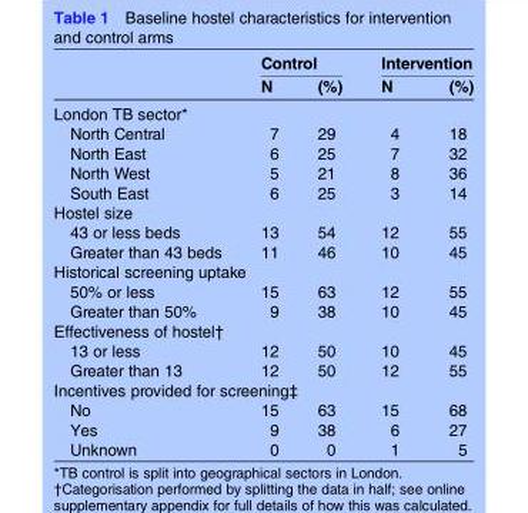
<table><thead><tr><td rowspan="2"></td><td colspan="2">Control</td><td colspan="2">Intervention</td></tr><tr><td>N</td><td>(%)</td><td>N</td><td>(%)</td></tr></thead><tbody><tr><td colspan="5">London TB sector*</td></tr><tr><td>North Central</td><td>7</td><td>29</td><td>4</td><td>18</td></tr><tr><td>North East</td><td>6</td><td>25</td><td>7</td><td>32</td></tr><tr><td>North West</td><td>5</td><td>21</td><td>8</td><td>36</td></tr><tr><td>South East</td><td>6</td><td>25</td><td>3</td><td>14</td></tr><tr><td colspan="5">Hostel size</td></tr><tr><td>43 or less beds</td><td>13</td><td>54</td><td>12</td><td>55</td></tr><tr><td>Greater than 43 beds</td><td>11</td><td>46</td><td>10</td><td>45</td></tr><tr><td colspan="5">Historical screening uptake</td></tr><tr><td>50% or less</td><td>15</td><td>63</td><td>12</td><td>55</td></tr><tr><td>Greater than 50%</td><td>9</td><td>38</td><td>10</td><td>45</td></tr><tr><td colspan="5">Effectiveness of hostel†</td></tr><tr><td>13 or less</td><td>12</td><td>50</td><td>10</td><td>45</td></tr><tr><td>Greater than 13</td><td>12</td><td>50</td><td>12</td><td>55</td></tr><tr><td colspan="5">Incentives provided for screening‡</td></tr><tr><td>No</td><td>15</td><td>63</td><td>15</td><td>68</td></tr><tr><td>Yes</td><td>9</td><td>38</td><td>6</td><td>27</td></tr><tr><td>Unknown</td><td>0</td><td>0</td><td>1</td><td>5</td></tr></tbody></table>